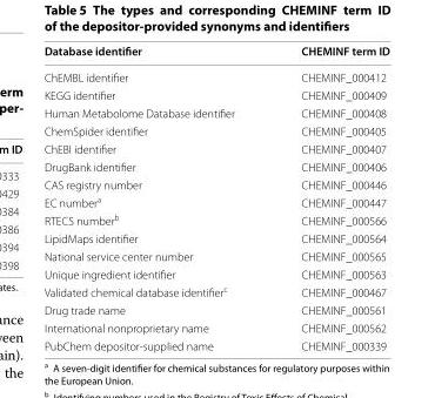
<table><thead><tr><td>Database identifier</td><td>CHEMINF term ID</td></tr></thead><tbody><tr><td>ChEMBL identifier</td><td>CHEMINF_000412</td></tr><tr><td>KEGG identifier</td><td>CHEMINF_000409</td></tr><tr><td>Human Metabolome Database identifier</td><td>CHEMINF_000408</td></tr><tr><td>ChemSpider identifier</td><td>CHEMINF_000405</td></tr><tr><td>ChEBI identifier</td><td>CHEMINF_000407</td></tr><tr><td>DrugBank identifier</td><td>CHEMINF_000406</td></tr><tr><td>CAS registry number</td><td>CHEMINF_000446</td></tr><tr><td>EC number<sup>a</sup></td><td>CHEMINF_000447</td></tr><tr><td>RTECS number<sup>b</sup></td><td>CHEMINF_000566</td></tr><tr><td>LipidMaps identifier</td><td>CHEMINF_000564</td></tr><tr><td>National service center number</td><td>CHEMINF_000565</td></tr><tr><td>Unique ingredient identifier</td><td>CHEMINF_000563</td></tr><tr><td>Validated chemical database identifier<sup>c</sup></td><td>CHEMINF_000467</td></tr><tr><td>Drug trade name</td><td>CHEMINF_000561</td></tr><tr><td>International nonproprietary name</td><td>CHEMINF_000562</td></tr><tr><td>PubChem depositor-supplied name</td><td>CHEMINF_000339</td></tr></tbody></table>